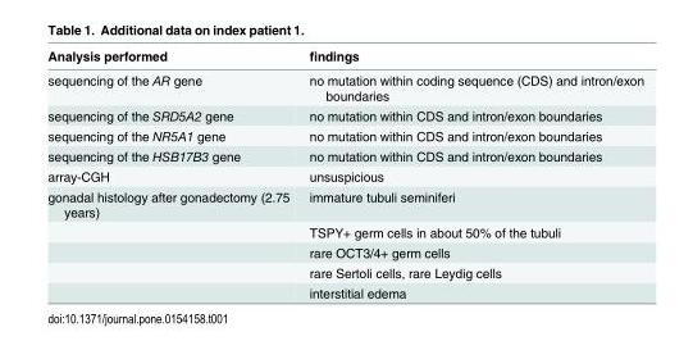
<table><thead><tr><td>Analysis performed</td><td>findings</td></tr></thead><tbody><tr><td>sequencing of the AR gene</td><td>no mutation within coding sequence (CDS) and intron/exon boundaries</td></tr><tr><td>sequencing of the SRD5A2 gene</td><td>no mutation within CDS and intron/exon boundaries</td></tr><tr><td>sequencing of the NR5A1 gene</td><td>no mutation within CDS and intron/exon boundaries</td></tr><tr><td>sequencing of the HSB17B3 gene</td><td>no mutation within CDS and intron/exon boundaries</td></tr><tr><td>array-CGH</td><td>unsuspicious</td></tr><tr><td rowspan="5">gonadal histology after gonadectomy (2.75 years)</td><td>immature tubuli seminiferi</td></tr><tr><td>TSPY+ germ cells in about 50% of the tubuli</td></tr><tr><td>rare OCT3/4+ germ cells</td></tr><tr><td>rare Sertoli cells, rare Leydig cells</td></tr><tr><td>interstitial edema</td></tr></tbody></table>